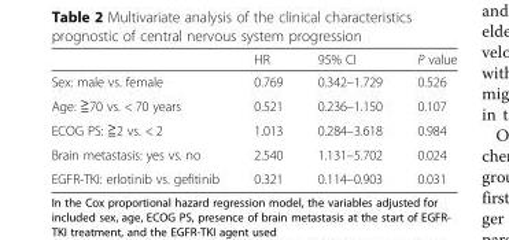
<table><thead><tr><td></td><td>HR</td><td>95% CI</td><td>P value</td></tr></thead><tbody><tr><td>Sex: male vs. female</td><td>0.769</td><td>0.342–1.729</td><td>0.526</td></tr><tr><td>Age: ≧70 vs. &lt; 70 years</td><td>0.521</td><td>0.236–1.150</td><td>0.107</td></tr><tr><td>ECOG PS: ≧2 vs. &lt; 2</td><td>1.013</td><td>0.284–3.618</td><td>0.984</td></tr><tr><td>Brain metastasis: yes vs. no</td><td>2.540</td><td>1.131–5.702</td><td>0.024</td></tr><tr><td>EGFR-TKI: erlotinib vs. gefitinib</td><td>0.321</td><td>0.114–0.903</td><td>0.031</td></tr></tbody></table>